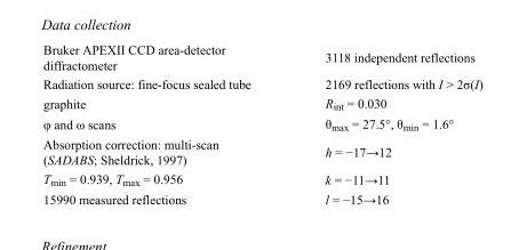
<table><tbody><tr><td>Bruker APEXII CCD area-detector diffractometer</td><td>3118 independent reflections</td></tr><tr><td>Radiation source: fine-focus sealed tube</td><td>2169 reflections with I &gt; 2σ(I)</td></tr><tr><td>graphite</td><td>R<sub>int</sub> = 0.030</td></tr><tr><td>φ and ω scans</td><td>θ<sub>max</sub> = 27.5°, θ<sub>min</sub> = 1.6°</td></tr><tr><td>Absorption correction: multi-scan (SADABS; Sheldrick, 1997)</td><td>h = −17→12</td></tr><tr><td>T<sub>min</sub> = 0.939, T<sub>max</sub> = 0.956</td><td>k = −11→11</td></tr><tr><td>15990 measured reflections</td><td>l = −15→16</td></tr></tbody></table>